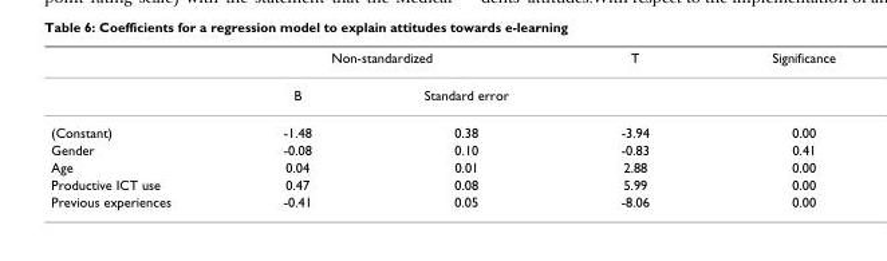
<table><thead><tr><td rowspan="2"></td><td colspan="2">Non-standardized</td><td rowspan="2">T</td><td rowspan="2">Significance</td></tr><tr><td>B</td><td>Standard error</td></tr></thead><tbody><tr><td>(Constant)</td><td>-1.48</td><td>0.38</td><td>-3.94</td><td>0.00</td></tr><tr><td>Gender</td><td>-0.08</td><td>0.10</td><td>-0.83</td><td>0.41</td></tr><tr><td>Age</td><td>0.04</td><td>0.01</td><td>2.88</td><td>0.00</td></tr><tr><td>Productive ICT use</td><td>0.47</td><td>0.08</td><td>5.99</td><td>0.00</td></tr><tr><td>Previous experiences</td><td>-0.41</td><td>0.05</td><td>-8.06</td><td>0.00</td></tr></tbody></table>